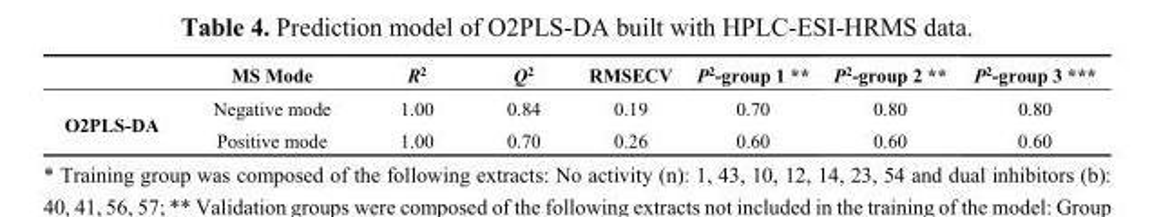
<table><thead><tr><td></td><td>MS Mode</td><td>R<sup>2</sup></td><td>Q<sup>2</sup></td><td>RMSECV</td><td>P<sup>2</sup>-group 1 **</td><td>P<sup>2</sup>-group 2 **</td><td>P<sup>2</sup>-group 3 ***</td></tr></thead><tbody><tr><td rowspan="2">O2PLS-DA</td><td>Negative mode</td><td>1.00</td><td>0.84</td><td>0.19</td><td>0.70</td><td>0.80</td><td>0.80</td></tr><tr><td>Positive mode</td><td>1.00</td><td>0.70</td><td>0.26</td><td>0.60</td><td>0.60</td><td>0.60</td></tr></tbody></table>